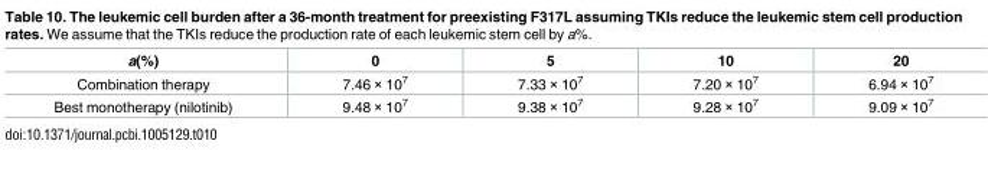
<table><thead><tr><td>a(%)</td><td>0</td><td>5</td><td>10</td><td>20</td></tr></thead><tbody><tr><td>Combination therapy</td><td>7.46 × 10<sup>7</sup></td><td>7.33 × 10<sup>7</sup></td><td>7.20 × 10<sup>7</sup></td><td>6.94 × 10<sup>7</sup></td></tr><tr><td>Best monotherapy (nilotinib)</td><td>9.48 × 10<sup>7</sup></td><td>9.38 × 10<sup>7</sup></td><td>9.28 × 10<sup>7</sup></td><td>9.09 × 10<sup>7</sup></td></tr></tbody></table>